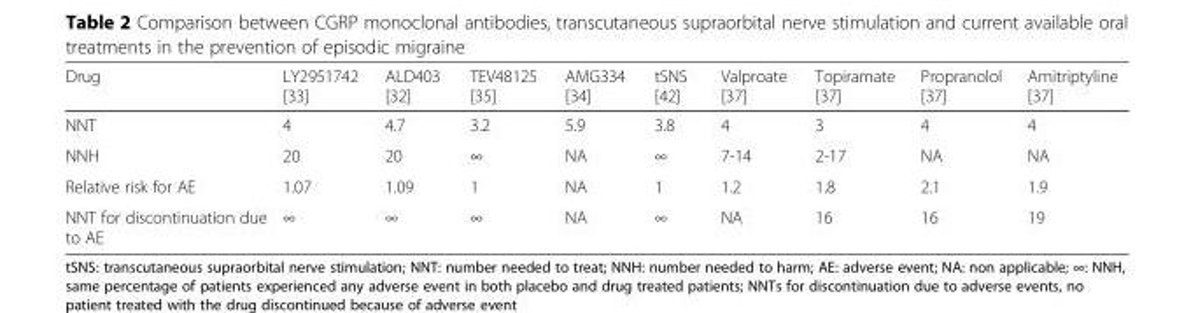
<table><thead><tr><td>Drug</td><td>LY2951742 [33]</td><td>ALD403 [32]</td><td>TEV48125 [35]</td><td>AMG334 [34]</td><td>tSNS [42]</td><td>Valproate [37]</td><td>Topiramate [37]</td><td>Propranolol [37]</td><td>Amitriptyline [37]</td></tr></thead><tbody><tr><td>NNT</td><td>4</td><td>4.7</td><td>3.2</td><td>5.9</td><td>3.8</td><td>4</td><td>3</td><td>4</td><td>4</td></tr><tr><td>NNH</td><td>20</td><td>20</td><td>∞</td><td>NA</td><td>∞</td><td>7-14</td><td>2-17</td><td>NA</td><td>NA</td></tr><tr><td>Relative risk for AE</td><td>1.07</td><td>1.09</td><td>1</td><td>NA</td><td>1</td><td>1.2</td><td>1.8</td><td>2.1</td><td>1.9</td></tr><tr><td>NNT for discontinuation due to AE</td><td>∞</td><td>∞</td><td>∞</td><td>NA</td><td>∞</td><td>NA</td><td>16</td><td>16</td><td>19</td></tr></tbody></table>